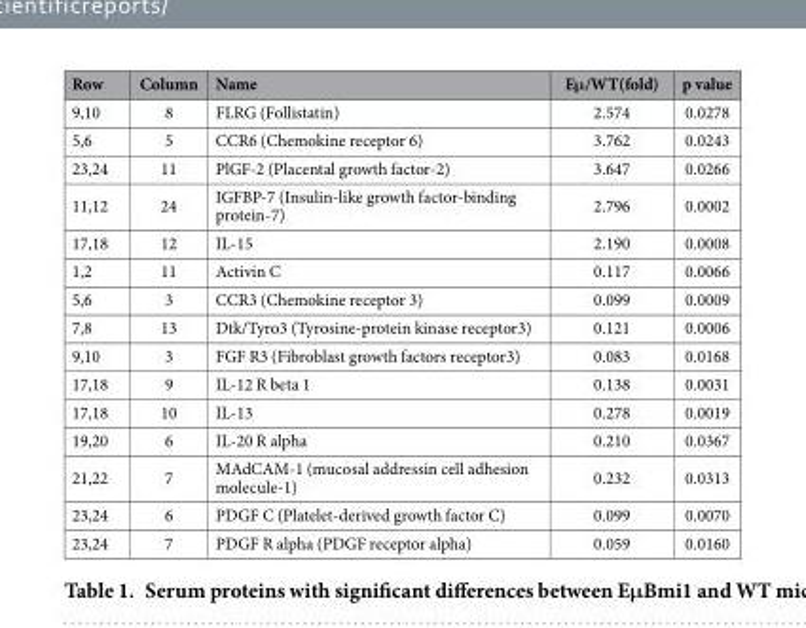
<table><thead><tr><td>Row</td><td>Column</td><td>Name</td><td>Eμ/WT(fold)</td><td>p value</td></tr></thead><tbody><tr><td>9,10</td><td>8</td><td>FLRG (Follistatin)</td><td>2.574</td><td>0.0278</td></tr><tr><td>5,6</td><td>5</td><td>CCR6 (Chemokine receptor 6)</td><td>3.762</td><td>0.0243</td></tr><tr><td>23,24</td><td>11</td><td>PlGF-2 (Placental growth factor-2)</td><td>3.647</td><td>0.0266</td></tr><tr><td>11,12</td><td>24</td><td>IGFBP-7 (Insulin-like growth factor-binding protein-7)</td><td>2.796</td><td>0.0002</td></tr><tr><td>17,18</td><td>12</td><td>IL-15</td><td>2.190</td><td>0.0008</td></tr><tr><td>1,2</td><td>11</td><td>Activin C</td><td>0.117</td><td>0.0066</td></tr><tr><td>5,6</td><td>3</td><td>CCR3 (Chemokine receptor 3)</td><td>0.099</td><td>0.0009</td></tr><tr><td>7,8</td><td>13</td><td>Dtk/Tyro3 (Tyrosine-protein kinase receptor3)</td><td>0.121</td><td>0.0006</td></tr><tr><td>9,10</td><td>3</td><td>FGF R3 (Fibroblast growth factors receptor3)</td><td>0.083</td><td>0.0168</td></tr><tr><td>17,18</td><td>9</td><td>IL-12 R beta 1</td><td>0.138</td><td>0.0031</td></tr><tr><td>17,18</td><td>10</td><td>IL-13</td><td>0.278</td><td>0.0019</td></tr><tr><td>19,20</td><td>6</td><td>IL-20 R alpha</td><td>0.210</td><td>0.0367</td></tr><tr><td>21,22</td><td>7</td><td>MAdCAM-1 (mucosal addressin cell adhesion molecule-1)</td><td>0.232</td><td>0.0313</td></tr><tr><td>23,24</td><td>6</td><td>PDGF C (Platelet-derived growth factor C)</td><td>0.099</td><td>0.0070</td></tr><tr><td>23,24</td><td>7</td><td>PDGF R alpha (PDGF receptor alpha)</td><td>0.059</td><td>0.0160</td></tr></tbody></table>